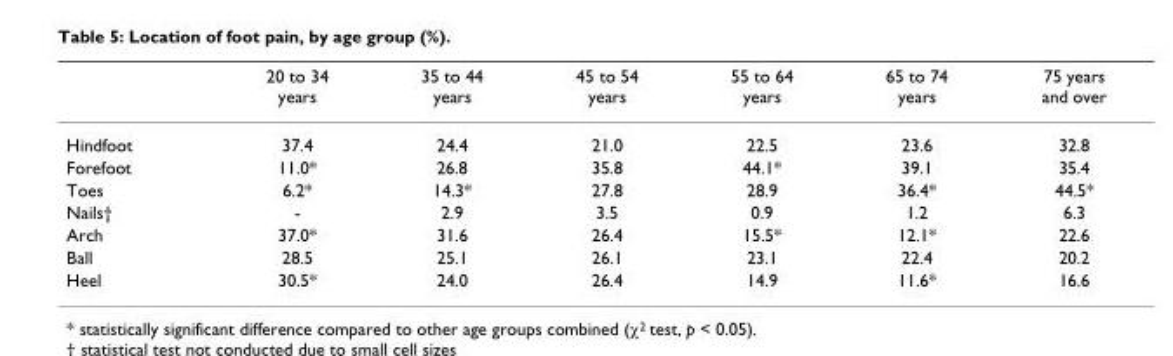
<table><thead><tr><td></td><td>20 to 34 years</td><td>35 to 44 years</td><td>45 to 54 years</td><td>55 to 64 years</td><td>65 to 74 years</td><td>75 years and over</td></tr></thead><tbody><tr><td>Hindfoot</td><td>37.4</td><td>24.4</td><td>21.0</td><td>22.5</td><td>23.6</td><td>32.8</td></tr><tr><td>Forefoot</td><td>11.0*</td><td>26.8</td><td>35.8</td><td>44.1*</td><td>39.1</td><td>35.4</td></tr><tr><td>Toes</td><td>6.2*</td><td>14.3*</td><td>27.8</td><td>28.9</td><td>36.4*</td><td>44.5*</td></tr><tr><td>Nails†</td><td>-</td><td>2.9</td><td>3.5</td><td>0.9</td><td>1.2</td><td>6.3</td></tr><tr><td>Arch</td><td>37.0*</td><td>31.6</td><td>26.4</td><td>15.5*</td><td>12.1*</td><td>22.6</td></tr><tr><td>Ball</td><td>28.5</td><td>25.1</td><td>26.1</td><td>23.1</td><td>22.4</td><td>20.2</td></tr><tr><td>Heel</td><td>30.5*</td><td>24.0</td><td>26.4</td><td>14.9</td><td>11.6*</td><td>16.6</td></tr></tbody></table>